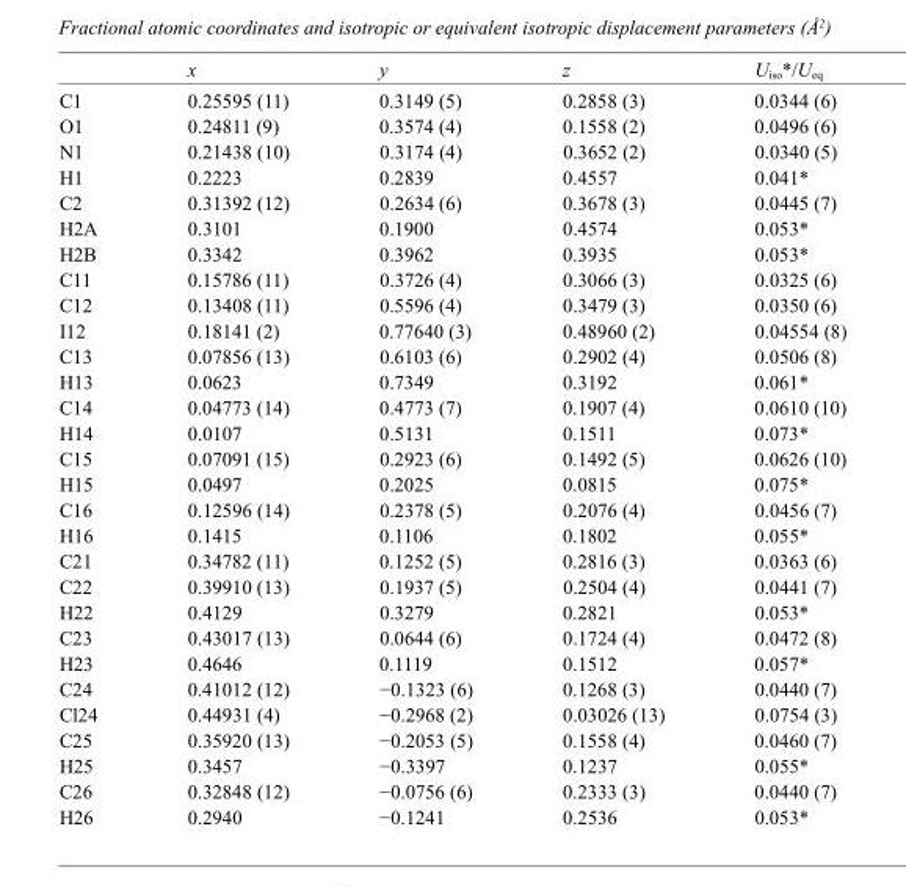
<table><thead><tr><td></td><td>x</td><td>y</td><td>z</td><td>U<sub>iso</sub>*/U<sub>eq</sub></td></tr></thead><tbody><tr><td>C1</td><td>0.25595 (11)</td><td>0.3149 (5)</td><td>0.2858 (3)</td><td>0.0344 (6)</td></tr><tr><td>O1</td><td>0.24811 (9)</td><td>0.3574 (4)</td><td>0.1558 (2)</td><td>0.0496 (6)</td></tr><tr><td>N1</td><td>0.21438 (10)</td><td>0.3174 (4)</td><td>0.3652 (2)</td><td>0.0340 (5)</td></tr><tr><td>H1</td><td>0.2223</td><td>0.2839</td><td>0.4557</td><td>0.041*</td></tr><tr><td>C2</td><td>0.31392 (12)</td><td>0.2634 (6)</td><td>0.3678 (3)</td><td>0.0445 (7)</td></tr><tr><td>H2A</td><td>0.3101</td><td>0.1900</td><td>0.4574</td><td>0.053*</td></tr><tr><td>H2B</td><td>0.3342</td><td>0.3962</td><td>0.3935</td><td>0.053*</td></tr><tr><td>C11</td><td>0.15786 (11)</td><td>0.3726 (4)</td><td>0.3066 (3)</td><td>0.0325 (6)</td></tr><tr><td>C12</td><td>0.13408 (11)</td><td>0.5596 (4)</td><td>0.3479 (3)</td><td>0.0350 (6)</td></tr><tr><td>I12</td><td>0.18141 (2)</td><td>0.77640 (3)</td><td>0.48960 (2)</td><td>0.04554 (8)</td></tr><tr><td>C13</td><td>0.07856 (13)</td><td>0.6103 (6)</td><td>0.2902 (4)</td><td>0.0506 (8)</td></tr><tr><td>H13</td><td>0.0623</td><td>0.7349</td><td>0.3192</td><td>0.061*</td></tr><tr><td>C14</td><td>0.04773 (14)</td><td>0.4773 (7)</td><td>0.1907 (4)</td><td>0.0610 (10)</td></tr><tr><td>H14</td><td>0.0107</td><td>0.5131</td><td>0.1511</td><td>0.073*</td></tr><tr><td>C15</td><td>0.07091 (15)</td><td>0.2923 (6)</td><td>0.1492 (5)</td><td>0.0626 (10)</td></tr><tr><td>H15</td><td>0.0497</td><td>0.2025</td><td>0.0815</td><td>0.075*</td></tr><tr><td>C16</td><td>0.12596 (14)</td><td>0.2378 (5)</td><td>0.2076 (4)</td><td>0.0456 (7)</td></tr><tr><td>H16</td><td>0.1415</td><td>0.1106</td><td>0.1802</td><td>0.055*</td></tr><tr><td>C21</td><td>0.34782 (11)</td><td>0.1252 (5)</td><td>0.2816 (3)</td><td>0.0363 (6)</td></tr><tr><td>C22</td><td>0.39910 (13)</td><td>0.1937 (5)</td><td>0.2504 (4)</td><td>0.0441 (7)</td></tr><tr><td>H22</td><td>0.4129</td><td>0.3279</td><td>0.2821</td><td>0.053*</td></tr><tr><td>C23</td><td>0.43017 (13)</td><td>0.0644 (6)</td><td>0.1724 (4)</td><td>0.0472 (8)</td></tr><tr><td>H23</td><td>0.4646</td><td>0.1119</td><td>0.1512</td><td>0.057*</td></tr><tr><td>C24</td><td>0.41012 (12)</td><td>−0.1323 (6)</td><td>0.1268 (3)</td><td>0.0440 (7)</td></tr><tr><td>Cl24</td><td>0.44931 (4)</td><td>−0.2968 (2)</td><td>0.03026 (13)</td><td>0.0754 (3)</td></tr><tr><td>C25</td><td>0.35920 (13)</td><td>−0.2053 (5)</td><td>0.1558 (4)</td><td>0.0460 (7)</td></tr><tr><td>H25</td><td>0.3457</td><td>−0.3397</td><td>0.1237</td><td>0.055*</td></tr><tr><td>C26</td><td>0.32848 (12)</td><td>−0.0756 (6)</td><td>0.2333 (3)</td><td>0.0440 (7)</td></tr><tr><td>H26</td><td>0.2940</td><td>−0.1241</td><td>0.2536</td><td>0.053*</td></tr></tbody></table>